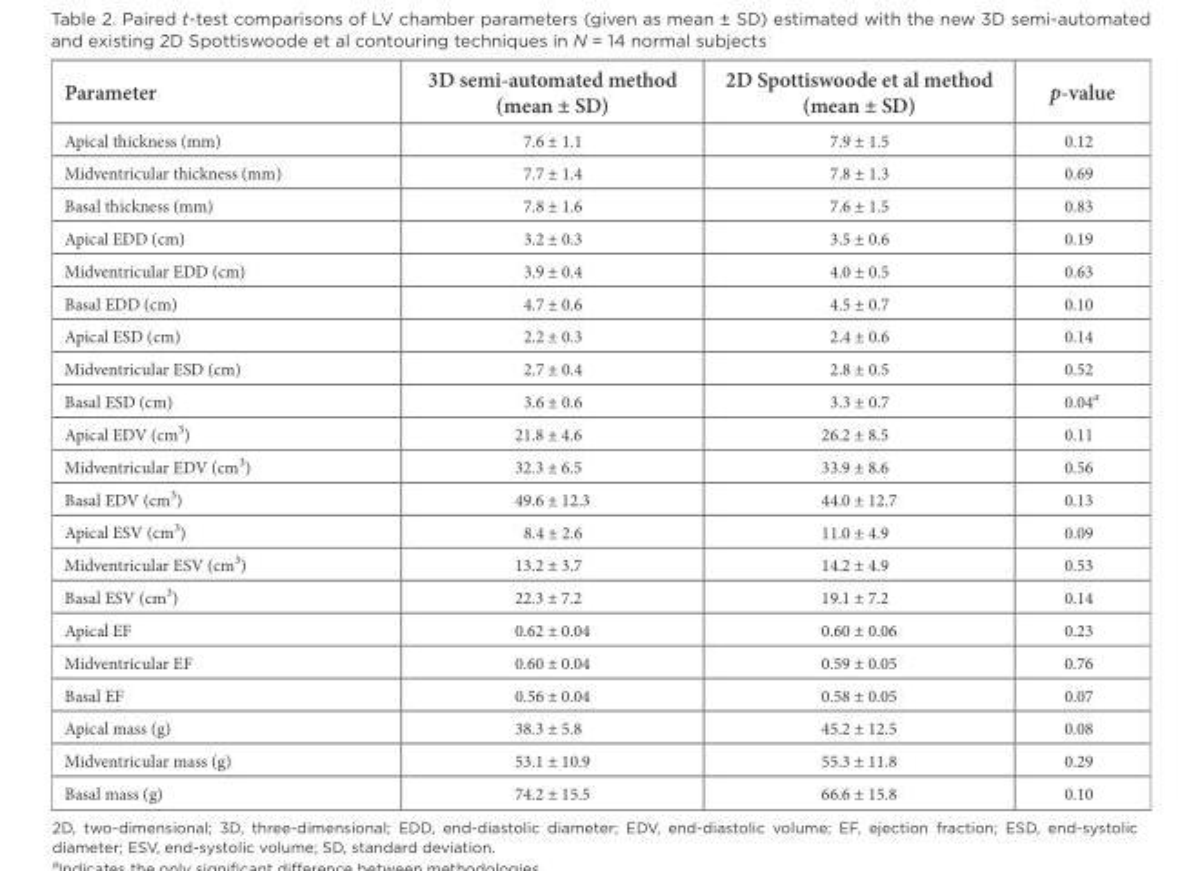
<table><thead><tr><td>Parameter</td><td>3D semi-automated method (mean ± SD)</td><td>2D Spottiswoode et al method (mean ± SD)</td><td>p-value</td></tr></thead><tbody><tr><td>Apical thickness (mm)</td><td>7.6 ± 1.1</td><td>7.9 ± 1.5</td><td>0.12</td></tr><tr><td>Midventricular thickness (mm)</td><td>7.7 ± 1.4</td><td>7.8 ± 1.3</td><td>0.69</td></tr><tr><td>Basal thickness (mm)</td><td>7.8 ± 1.6</td><td>7.6 ± 1.5</td><td>0.83</td></tr><tr><td>Apical EDD (cm)</td><td>3.2 ± 0.3</td><td>3.5 ± 0.6</td><td>0.19</td></tr><tr><td>Midventricular EDD (cm)</td><td>3.9 ± 0.4</td><td>4.0 ± 0.5</td><td>0.63</td></tr><tr><td>Basal EDD (cm)</td><td>4.7 ± 0.6</td><td>4.5 ± 0.7</td><td>0.10</td></tr><tr><td>Apical ESD (cm)</td><td>2.2 ± 0.3</td><td>2.4 ± 0.6</td><td>0.14</td></tr><tr><td>Midventricular ESD (cm)</td><td>2.7 ± 0.4</td><td>2.8 ± 0.5</td><td>0.52</td></tr><tr><td>Basal ESD (cm)</td><td>3.6 ± 0.6</td><td>3.3 ± 0.7</td><td>0.04<sup>a</sup></td></tr><tr><td>Apical EDV (cm<sup>3</sup>)</td><td>21.8 ± 4.6</td><td>26.2 ± 8.5</td><td>0.11</td></tr><tr><td>Midventricular EDV (cm<sup>3</sup>)</td><td>32.3 ± 6.5</td><td>33.9 ± 8.6</td><td>0.56</td></tr><tr><td>Basal EDV (cm<sup>3</sup>)</td><td>49.6 ± 12.3</td><td>44.0 ± 12.7</td><td>0.13</td></tr><tr><td>Apical ESV (cm<sup>3</sup>)</td><td>8.4 ± 2.6</td><td>11.0 ± 4.9</td><td>0.09</td></tr><tr><td>Midventricular ESV (cm<sup>3</sup>)</td><td>13.2 ± 3.7</td><td>14.2 ± 4.9</td><td>0.53</td></tr><tr><td>Basal ESV (cm<sup>3</sup>)</td><td>22.3 ± 7.2</td><td>19.1 ± 7.2</td><td>0.14</td></tr><tr><td>Apical EF</td><td>0.62 ± 0.04</td><td>0.60 ± 0.06</td><td>0.23</td></tr><tr><td>Midventricular EF</td><td>0.60 ± 0.04</td><td>0.59 ± 0.05</td><td>0.76</td></tr><tr><td>Basal EF</td><td>0.56 ± 0.04</td><td>0.58 ± 0.05</td><td>0.07</td></tr><tr><td>Apical mass (g)</td><td>38.3 ± 5.8</td><td>45.2 ± 12.5</td><td>0.08</td></tr><tr><td>Midventricular mass (g)</td><td>53.1 ± 10.9</td><td>55.3 ± 11.8</td><td>0.29</td></tr><tr><td>Basal mass (g)</td><td>74.2 ± 15.5</td><td>66.6 ± 15.8</td><td>0.10</td></tr></tbody></table>